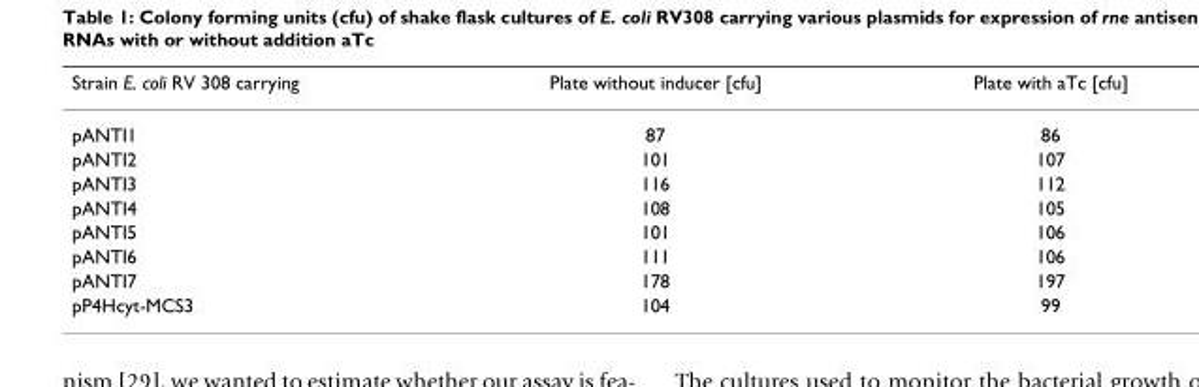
<table><thead><tr><td>Strain E. coli RV 308 carrying</td><td>Plate without inducer [cfu]</td><td>Plate with aTc [cfu]</td></tr></thead><tbody><tr><td>pANTI1</td><td>87</td><td>86</td></tr><tr><td>pANTI2</td><td>101</td><td>107</td></tr><tr><td>pANTI3</td><td>116</td><td>112</td></tr><tr><td>pANTI4</td><td>108</td><td>105</td></tr><tr><td>pANTI5</td><td>101</td><td>106</td></tr><tr><td>pANTI6</td><td>111</td><td>106</td></tr><tr><td>pANTI7</td><td>178</td><td>197</td></tr><tr><td>pP4Hcyt-MCS3</td><td>104</td><td>99</td></tr></tbody></table>